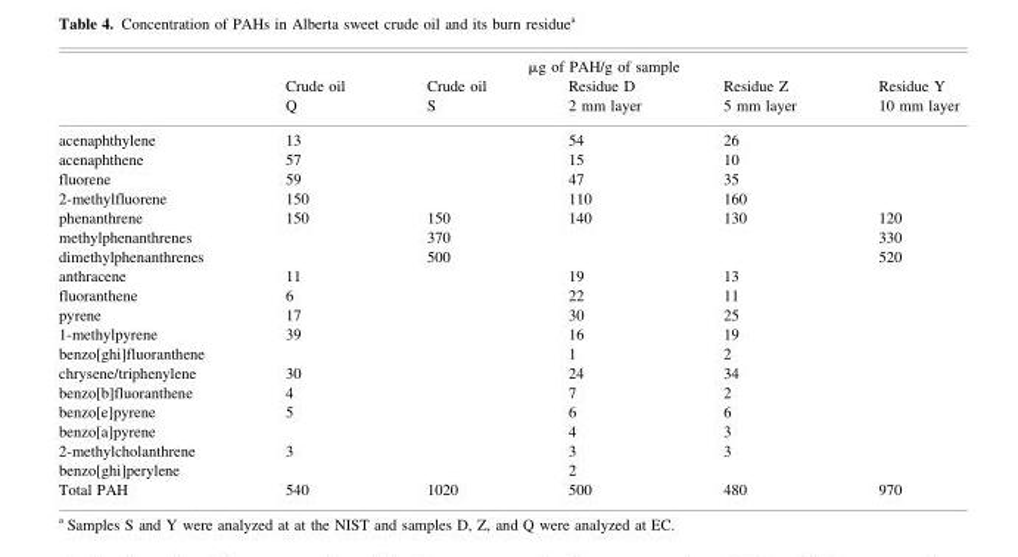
<table><thead><tr><td rowspan="3"></td><td colspan="5">µg of PAH/g of sample</td></tr><tr><td rowspan="2">Crude oil Q</td><td rowspan="2">Crude oil S</td><td rowspan="2">Residue D 2 mm layer</td><td rowspan="2">Residue Z 5 mm layer</td><td rowspan="2">Residue Y 10 mm layer</td></tr><tr></tr></thead><tbody><tr><td>acenaphthylene</td><td>13</td><td></td><td>54</td><td>26</td><td></td></tr><tr><td>acenaphthene</td><td>57</td><td></td><td>15</td><td>10</td><td></td></tr><tr><td>fluorene</td><td>59</td><td></td><td>47</td><td>35</td><td></td></tr><tr><td>2-methylfluorene</td><td>150</td><td></td><td>110</td><td>160</td><td></td></tr><tr><td>phenanthrene</td><td>150</td><td>150</td><td>140</td><td>130</td><td>120</td></tr><tr><td>methylphenanthrenes</td><td></td><td>370</td><td></td><td></td><td>330</td></tr><tr><td>dimethylphenanthrenes</td><td></td><td>500</td><td></td><td></td><td>520</td></tr><tr><td>anthracene</td><td>11</td><td></td><td>19</td><td>13</td><td></td></tr><tr><td>fluoranthene</td><td>6</td><td></td><td>22</td><td>11</td><td></td></tr><tr><td>pyrene</td><td>17</td><td></td><td>30</td><td>25</td><td></td></tr><tr><td>1-methylpyrene</td><td>39</td><td></td><td>16</td><td>19</td><td></td></tr><tr><td>benzo[ghi]fluoranthene</td><td></td><td></td><td>1</td><td>2</td><td></td></tr><tr><td>chrysene/triphenylene</td><td>30</td><td></td><td>24</td><td>34</td><td></td></tr><tr><td>benzo[b]fluoranthene</td><td>4</td><td></td><td>7</td><td>2</td><td></td></tr><tr><td>benzo[e]pyrene</td><td>5</td><td></td><td>6</td><td>6</td><td></td></tr><tr><td>benzo[a]pyrene</td><td></td><td></td><td>4</td><td>3</td><td></td></tr><tr><td>2-methylcholanthrene</td><td>3</td><td></td><td>3</td><td>3</td><td></td></tr><tr><td>benzo[ghi]perylene</td><td></td><td></td><td>2</td><td></td><td></td></tr><tr><td>Total PAH</td><td>540</td><td>1020</td><td>500</td><td>480</td><td>970</td></tr></tbody></table>